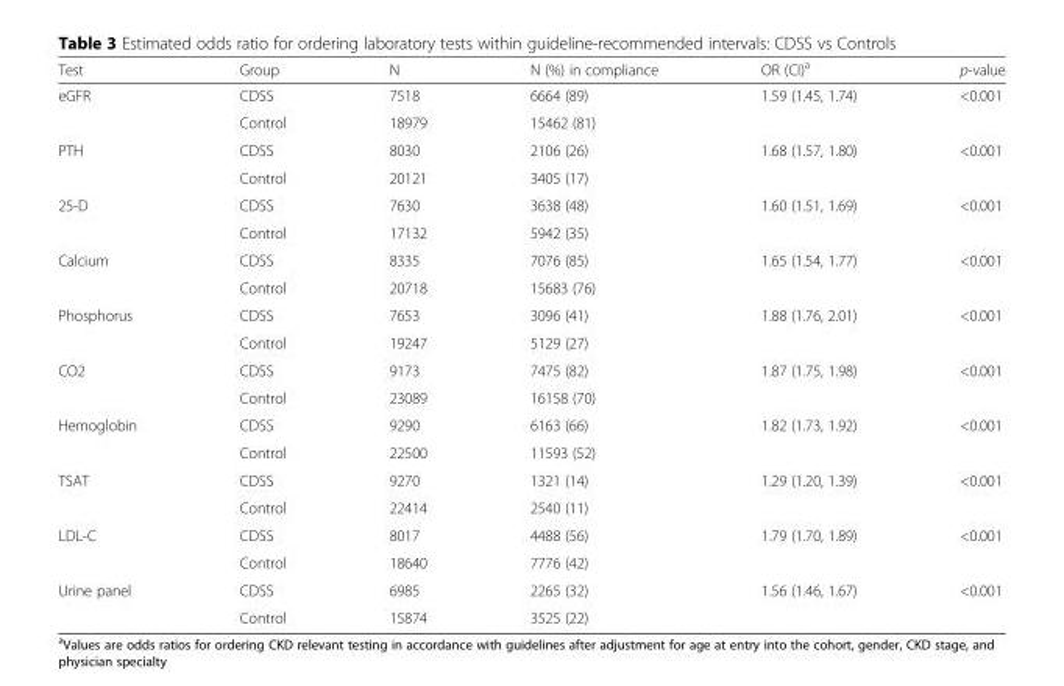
<table><thead><tr><td>Test</td><td>Group</td><td>N</td><td>N (%) in compliance</td><td>OR (CI)<sup>a</sup></td><td>p-value</td></tr></thead><tbody><tr><td rowspan="2">eGFR</td><td>CDSS</td><td>7518</td><td>6664 (89)</td><td rowspan="2">1.59 (1.45, 1.74)</td><td rowspan="2">&lt;0.001</td></tr><tr><td>Control</td><td>18979</td><td>15462 (81)</td></tr><tr><td rowspan="2">PTH</td><td>CDSS</td><td>8030</td><td>2106 (26)</td><td rowspan="2">1.68 (1.57, 1.80)</td><td rowspan="2">&lt;0.001</td></tr><tr><td>Control</td><td>20121</td><td>3405 (17)</td></tr><tr><td rowspan="2">25-D</td><td>CDSS</td><td>7630</td><td>3638 (48)</td><td rowspan="2">1.60 (1.51, 1.69)</td><td rowspan="2">&lt;0.001</td></tr><tr><td>Control</td><td>17132</td><td>5942 (35)</td></tr><tr><td rowspan="2">Calcium</td><td>CDSS</td><td>8335</td><td>7076 (85)</td><td rowspan="2">1.65 (1.54, 1.77)</td><td rowspan="2">&lt;0.001</td></tr><tr><td>Control</td><td>20718</td><td>15683 (76)</td></tr><tr><td rowspan="2">Phosphorus</td><td>CDSS</td><td>7653</td><td>3096 (41)</td><td rowspan="2">1.88 (1.76, 2.01)</td><td rowspan="2">&lt;0.001</td></tr><tr><td>Control</td><td>19247</td><td>5129 (27)</td></tr><tr><td rowspan="2">CO2</td><td>CDSS</td><td>9173</td><td>7475 (82)</td><td rowspan="2">1.87 (1.75, 1.98)</td><td rowspan="2">&lt;0.001</td></tr><tr><td>Control</td><td>23089</td><td>16158 (70)</td></tr><tr><td rowspan="2">Hemoglobin</td><td>CDSS</td><td>9290</td><td>6163 (66)</td><td rowspan="2">1.82 (1.73, 1.92)</td><td rowspan="2">&lt;0.001</td></tr><tr><td>Control</td><td>22500</td><td>11593 (52)</td></tr><tr><td rowspan="2">TSAT</td><td>CDSS</td><td>9270</td><td>1321 (14)</td><td rowspan="2">1.29 (1.20, 1.39)</td><td rowspan="2">&lt;0.001</td></tr><tr><td>Control</td><td>22414</td><td>2540 (11)</td></tr><tr><td rowspan="2">LDL-C</td><td>CDSS</td><td>8017</td><td>4488 (56)</td><td rowspan="2">1.79 (1.70, 1.89)</td><td rowspan="2">&lt;0.001</td></tr><tr><td>Control</td><td>18640</td><td>7776 (42)</td></tr><tr><td rowspan="2">Urine panel</td><td>CDSS</td><td>6985</td><td>2265 (32)</td><td rowspan="2">1.56 (1.46, 1.67)</td><td rowspan="2">&lt;0.001</td></tr><tr><td>Control</td><td>15874</td><td>3525 (22)</td></tr></tbody></table>